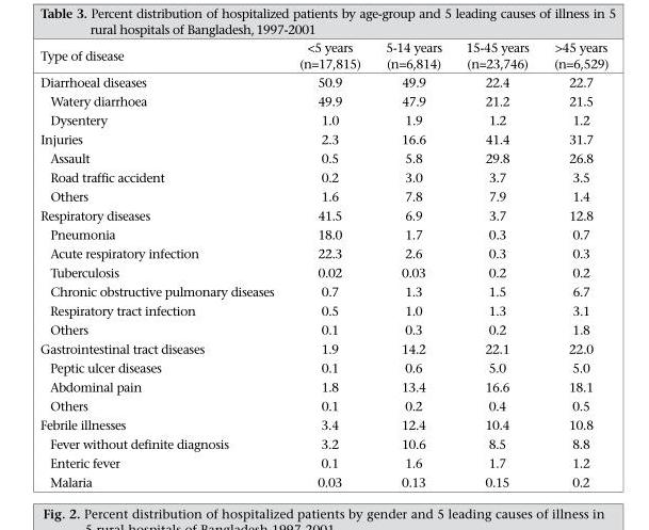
<table><thead><tr><td>Type of disease</td><td>&lt;5 years (n=17,815)</td><td>5-14 years (n=6,814)</td><td>15-45 years (n=23,746)</td><td>&gt;45 years (n=6,529)</td></tr></thead><tbody><tr><td>Diarrhoeal diseases</td><td>50.9</td><td>49.9</td><td>22.4</td><td>22.7</td></tr><tr><td>Watery diarrhoea</td><td>49.9</td><td>47.9</td><td>21.2</td><td>21.5</td></tr><tr><td>Dysentery</td><td>1.0</td><td>1.9</td><td>1.2</td><td>1.2</td></tr><tr><td>Injuries</td><td>2.3</td><td>16.6</td><td>41.4</td><td>31.7</td></tr><tr><td>Assault</td><td>0.5</td><td>5.8</td><td>29.8</td><td>26.8</td></tr><tr><td>Road traffic accident</td><td>0.2</td><td>3.0</td><td>3.7</td><td>3.5</td></tr><tr><td>Others</td><td>1.6</td><td>7.8</td><td>7.9</td><td>1.4</td></tr><tr><td>Respiratory diseases</td><td>41.5</td><td>6.9</td><td>3.7</td><td>12.8</td></tr><tr><td>Pneumonia</td><td>18.0</td><td>1.7</td><td>0.3</td><td>0.7</td></tr><tr><td>Acute respiratory infection</td><td>22.3</td><td>2.6</td><td>0.3</td><td>0.3</td></tr><tr><td>Tuberculosis</td><td>0.02</td><td>0.03</td><td>0.2</td><td>0.2</td></tr><tr><td>Chronic obstructive pulmonary diseases</td><td>0.7</td><td>1.3</td><td>1.5</td><td>6.7</td></tr><tr><td>Respiratory tract infection</td><td>0.5</td><td>1.0</td><td>1.3</td><td>3.1</td></tr><tr><td>Others</td><td>0.1</td><td>0.3</td><td>0.2</td><td>1.8</td></tr><tr><td>Gastrointestinal tract diseases</td><td>1.9</td><td>14.2</td><td>22.1</td><td>22.0</td></tr><tr><td>Peptic ulcer diseases</td><td>0.1</td><td>0.6</td><td>5.0</td><td>5.0</td></tr><tr><td>Abdominal pain</td><td>1.8</td><td>13.4</td><td>16.6</td><td>18.1</td></tr><tr><td>Others</td><td>0.1</td><td>0.2</td><td>0.4</td><td>0.5</td></tr><tr><td>Febrile illnesses</td><td>3.4</td><td>12.4</td><td>10.4</td><td>10.8</td></tr><tr><td>Fever without definite diagnosis</td><td>3.2</td><td>10.6</td><td>8.5</td><td>8.8</td></tr><tr><td>Enteric fever</td><td>0.1</td><td>1.6</td><td>1.7</td><td>1.2</td></tr><tr><td>Malaria</td><td>0.03</td><td>0.13</td><td>0.15</td><td>0.2</td></tr></tbody></table>